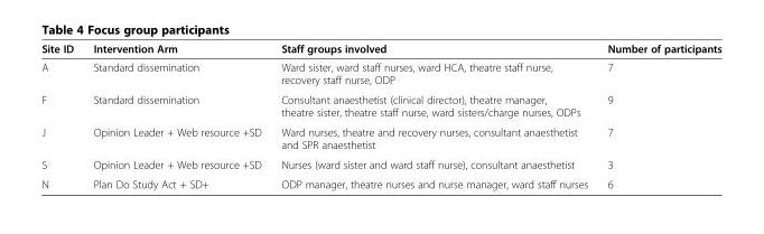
<table><thead><tr><td>Site ID</td><td>Intervention Arm</td><td>Staff groups involved</td><td>Number of participants</td></tr></thead><tbody><tr><td>A</td><td>Standard dissemination</td><td>Ward sister, ward staff nurses, ward HCA, theatre staff nurse, recovery staff nurse, ODP</td><td>7</td></tr><tr><td>F</td><td>Standard dissemination</td><td>Consultant anaesthetist (clinical director), theatre manager, theatre sister, theatre staff nurse, ward sisters/charge nurses, ODPs</td><td>9</td></tr><tr><td>J</td><td>Opinion Leader + Web resource +SD</td><td>Ward nurses, theatre and recovery nurses, consultant anaesthetist and SPR anaesthetist</td><td>7</td></tr><tr><td>S</td><td>Opinion Leader + Web resource +SD</td><td>Nurses (ward sister and ward staff nurse), consultant anaesthetist</td><td>3</td></tr><tr><td>N</td><td>Plan Do Study Act + SD+</td><td>ODP manager, theatre nurses and nurse manager, ward staff nurses</td><td>6</td></tr></tbody></table>